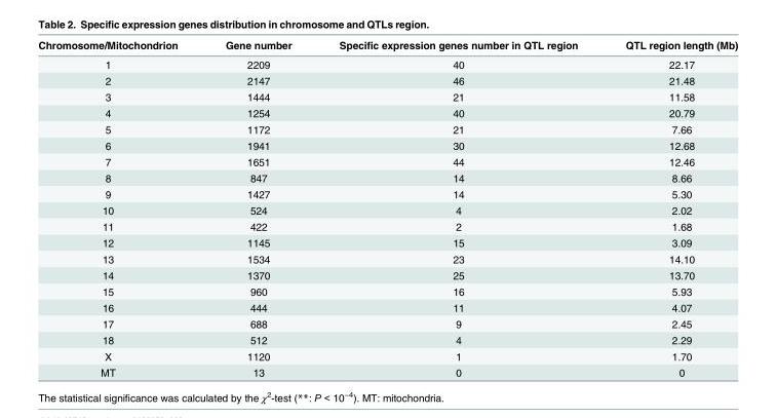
<table><thead><tr><td>Chromosome/Mitochondrion</td><td>Gene number</td><td>Specific expression genes number in QTL region</td><td>QTL region length (Mb)</td></tr></thead><tbody><tr><td>1</td><td>2209</td><td>40</td><td>22.17</td></tr><tr><td>2</td><td>2147</td><td>46</td><td>21.48</td></tr><tr><td>3</td><td>1444</td><td>21</td><td>11.58</td></tr><tr><td>4</td><td>1254</td><td>40</td><td>20.79</td></tr><tr><td>5</td><td>1172</td><td>21</td><td>7.66</td></tr><tr><td>6</td><td>1941</td><td>30</td><td>12.68</td></tr><tr><td>7</td><td>1651</td><td>44</td><td>12.46</td></tr><tr><td>8</td><td>847</td><td>14</td><td>8.66</td></tr><tr><td>9</td><td>1427</td><td>14</td><td>5.30</td></tr><tr><td>10</td><td>524</td><td>4</td><td>2.02</td></tr><tr><td>11</td><td>422</td><td>2</td><td>1.68</td></tr><tr><td>12</td><td>1145</td><td>15</td><td>3.09</td></tr><tr><td>13</td><td>1534</td><td>23</td><td>14.10</td></tr><tr><td>14</td><td>1370</td><td>25</td><td>13.70</td></tr><tr><td>15</td><td>960</td><td>16</td><td>5.93</td></tr><tr><td>16</td><td>444</td><td>11</td><td>4.07</td></tr><tr><td>17</td><td>688</td><td>9</td><td>2.45</td></tr><tr><td>18</td><td>512</td><td>4</td><td>2.29</td></tr><tr><td>X</td><td>1120</td><td>1</td><td>1.70</td></tr><tr><td>MT</td><td>13</td><td>0</td><td>0</td></tr></tbody></table>